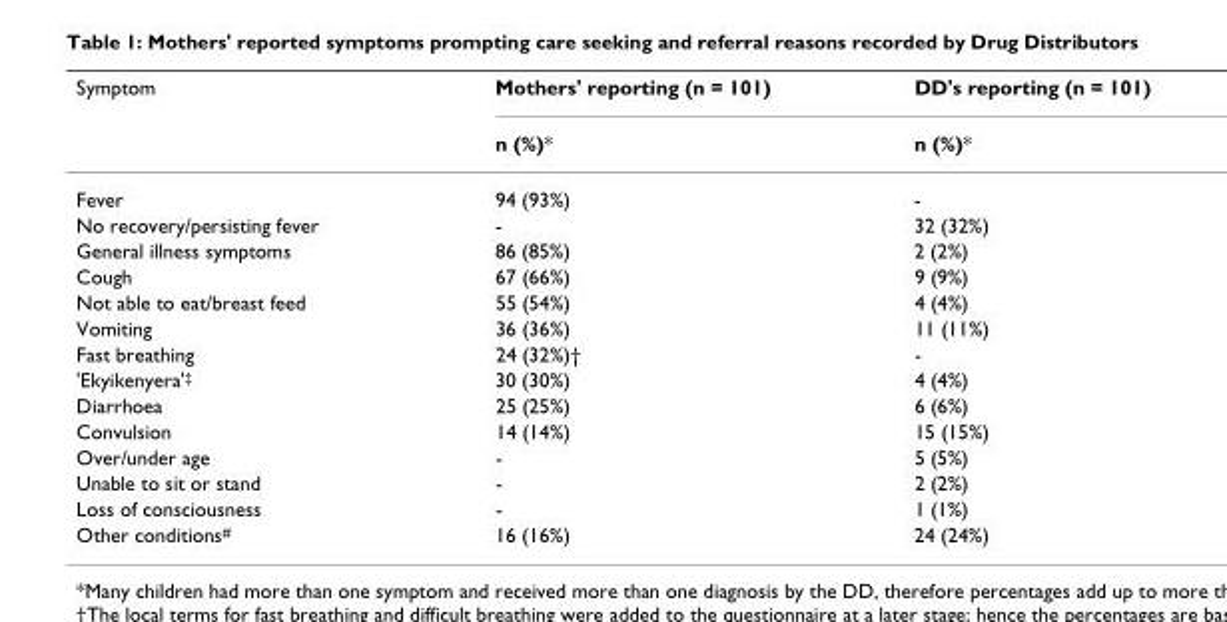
<table><thead><tr><td rowspan="2">Symptom</td><td rowspan="2">Mothers&#x27; reporting (n = 101) n (%)*</td><td rowspan="2">DD&#x27;s reporting (n = 101) n (%)*</td></tr><tr></tr></thead><tbody><tr><td>Fever</td><td>94 (93%)</td><td>-</td></tr><tr><td>No recovery/persisting fever</td><td>-</td><td>32 (32%)</td></tr><tr><td>General illness symptoms</td><td>86 (85%)</td><td>2 (2%)</td></tr><tr><td>Cough</td><td>67 (66%)</td><td>9 (9%)</td></tr><tr><td>Not able to eat/breast feed</td><td>55 (54%)</td><td>4 (4%)</td></tr><tr><td>Vomiting</td><td>36 (36%)</td><td>11 (11%)</td></tr><tr><td>Fast breathing</td><td>24 (32%)†</td><td>-</td></tr><tr><td>&#x27;Ekyikenyera&#x27;<sup>‡</sup></td><td>30 (30%)</td><td>4 (4%)</td></tr><tr><td>Diarrhoea</td><td>25 (25%)</td><td>6 (6%)</td></tr><tr><td>Convulsion</td><td>14 (14%)</td><td>15 (15%)</td></tr><tr><td>Over/under age</td><td>-</td><td>5 (5%)</td></tr><tr><td>Unable to sit or stand</td><td>-</td><td>2 (2%)</td></tr><tr><td>Loss of consciousness</td><td>-</td><td>1 (1%)</td></tr><tr><td>Other conditions<sup>#</sup></td><td>16 (16%)</td><td>24 (24%)</td></tr></tbody></table>